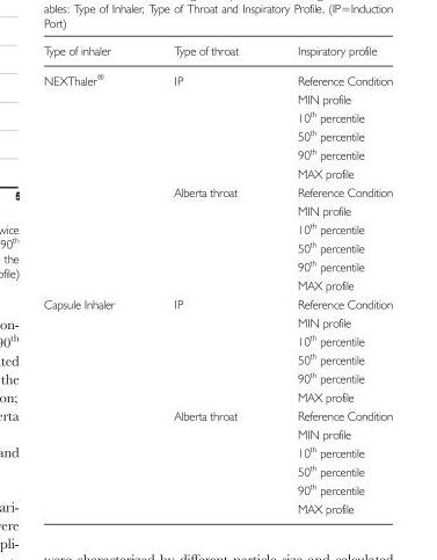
<table><thead><tr><td>Type of inhaler</td><td>Type of throat</td><td>Inspiratory profile</td></tr></thead><tbody><tr><td rowspan="12">NEXThaler<sup>®</sup></td><td rowspan="6">IP</td><td>Reference Condition</td></tr><tr><td>MIN profile</td></tr><tr><td>10<sup>th</sup> percentile</td></tr><tr><td>50<sup>th</sup> percentile</td></tr><tr><td>90<sup>th</sup> percentile</td></tr><tr><td>MAX profile</td></tr><tr><td rowspan="6">Alberta throat</td><td>Reference Condition</td></tr><tr><td>MIN profile</td></tr><tr><td>10<sup>th</sup> percentile</td></tr><tr><td>50<sup>th</sup> percentile</td></tr><tr><td>90<sup>th</sup> percentile</td></tr><tr><td>MAX profile</td></tr><tr><td rowspan="12">Capsule Inhaler</td><td rowspan="6">IP</td><td>Reference Condition</td></tr><tr><td>MIN profile</td></tr><tr><td>10<sup>th</sup> percentile</td></tr><tr><td>50<sup>th</sup> percentile</td></tr><tr><td>90<sup>th</sup> percentile</td></tr><tr><td>MAX profile</td></tr><tr><td rowspan="6">Alberta throat</td><td>Reference Condition</td></tr><tr><td>MIN profile</td></tr><tr><td>10<sup>th</sup> percentile</td></tr><tr><td>50<sup>th</sup> percentile</td></tr><tr><td>90<sup>th</sup> percentile</td></tr><tr><td>MAX profile</td></tr></tbody></table>